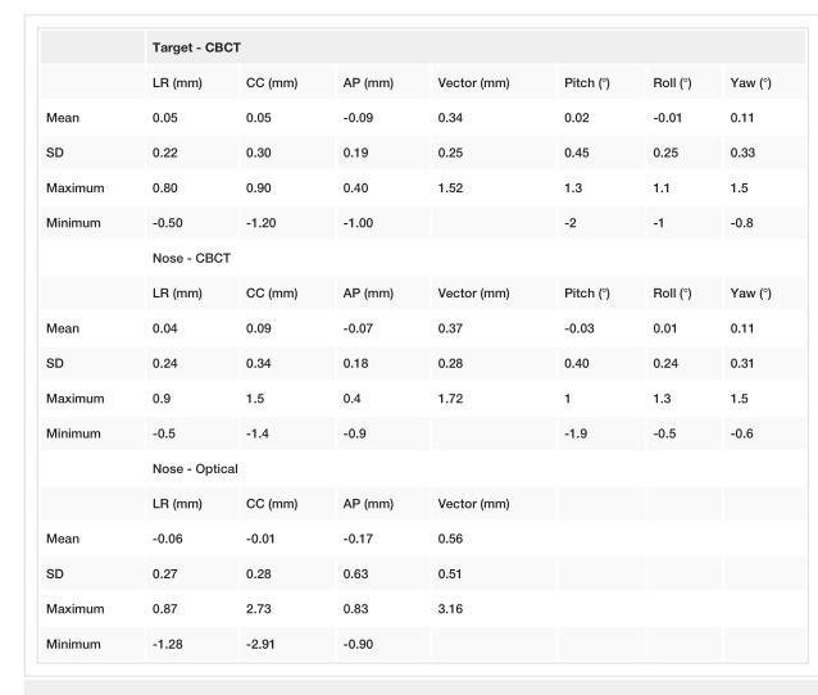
<table><thead><tr><td rowspan="2"></td><td colspan="7">Target - CBCT</td></tr><tr><td>LR (mm)</td><td>CC (mm)</td><td>AP (mm)</td><td>Vector (mm)</td><td>Pitch (°)</td><td>Roll (°)</td><td>Yaw (°)</td></tr></thead><tbody><tr><td>Mean</td><td>0.05</td><td>0.05</td><td>-0.09</td><td>0.34</td><td>0.02</td><td>-0.01</td><td>0.11</td></tr><tr><td>SD</td><td>0.22</td><td>0.30</td><td>0.19</td><td>0.25</td><td>0.45</td><td>0.25</td><td>0.33</td></tr><tr><td>Maximum</td><td>0.80</td><td>0.90</td><td>0.40</td><td>1.52</td><td>1.3</td><td>1.1</td><td>1.5</td></tr><tr><td rowspan="3">Minimum</td><td>-0.50</td><td>-1.20</td><td>-1.00</td><td></td><td>-2</td><td>-1</td><td>-0.8</td></tr><tr><td colspan="7">Nose - CBCT</td></tr><tr><td>LR (mm)</td><td>CC (mm)</td><td>AP (mm)</td><td>Vector (mm)</td><td>Pitch (°)</td><td>Roll (°)</td><td>Yaw (°)</td></tr><tr><td>Mean</td><td>0.04</td><td>0.09</td><td>-0.07</td><td>0.37</td><td>-0.03</td><td>0.01</td><td>0.11</td></tr><tr><td>SD</td><td>0.24</td><td>0.34</td><td>0.18</td><td>0.28</td><td>0.40</td><td>0.24</td><td>0.31</td></tr><tr><td>Maximum</td><td>0.9</td><td>1.5</td><td>0.4</td><td>1.72</td><td>1</td><td>1.3</td><td>1.5</td></tr><tr><td rowspan="3">Minimum</td><td>-0.5</td><td>-1.4</td><td>-0.9</td><td></td><td>-1.9</td><td>-0.5</td><td>-0.6</td></tr><tr><td colspan="4">Nose - Optical</td><td></td><td></td><td></td></tr><tr><td>LR (mm)</td><td>CC (mm)</td><td>AP (mm)</td><td>Vector (mm)</td><td></td><td></td><td></td></tr><tr><td>Mean</td><td>-0.06</td><td>-0.01</td><td>-0.17</td><td>0.56</td><td></td><td></td><td></td></tr><tr><td>SD</td><td>0.27</td><td>0.28</td><td>0.63</td><td>0.51</td><td></td><td></td><td></td></tr><tr><td>Maximum</td><td>0.87</td><td>2.73</td><td>0.83</td><td>3.16</td><td></td><td></td><td></td></tr><tr><td>Minimum</td><td>-1.28</td><td>-2.91</td><td>-0.90</td><td></td><td></td><td></td><td></td></tr></tbody></table>